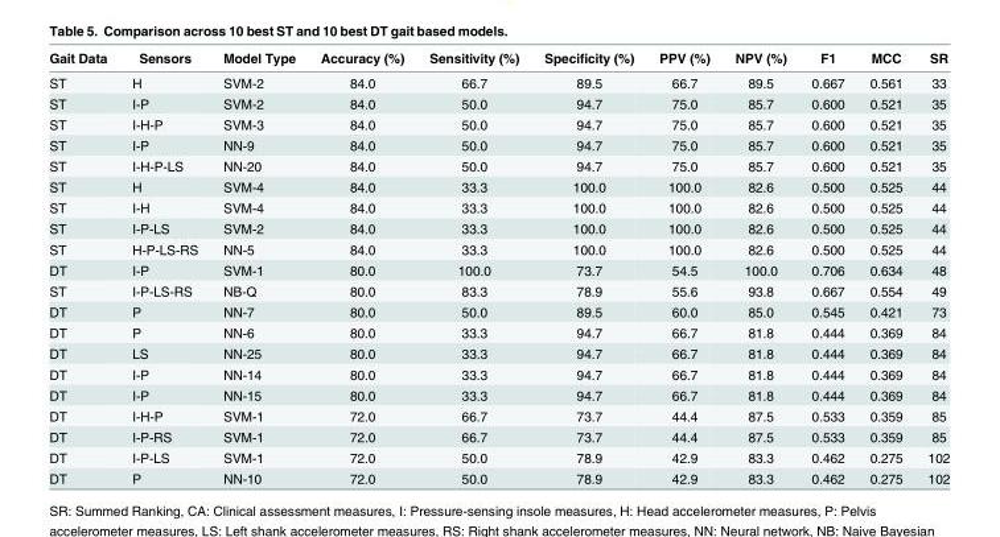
<table><thead><tr><td>Gait Data</td><td>Sensors</td><td>Model Type</td><td>Accuracy (%)</td><td>Sensitivity (%)</td><td>Specificity (%)</td><td>PPV (%)</td><td>NPV (%)</td><td>F1</td><td>MCC</td><td>SR</td></tr></thead><tbody><tr><td>ST</td><td>H</td><td>SVM-2</td><td>84.0</td><td>66.7</td><td>89.5</td><td>66.7</td><td>89.5</td><td>0.667</td><td>0.561</td><td>33</td></tr><tr><td>ST</td><td>I-P</td><td>SVM-2</td><td>84.0</td><td>50.0</td><td>94.7</td><td>75.0</td><td>85.7</td><td>0.600</td><td>0.521</td><td>35</td></tr><tr><td>ST</td><td>I-H-P</td><td>SVM-3</td><td>84.0</td><td>50.0</td><td>94.7</td><td>75.0</td><td>85.7</td><td>0.600</td><td>0.521</td><td>35</td></tr><tr><td>ST</td><td>I-P</td><td>NN-9</td><td>84.0</td><td>50.0</td><td>94.7</td><td>75.0</td><td>85.7</td><td>0.600</td><td>0.521</td><td>35</td></tr><tr><td>ST</td><td>I-H-P-LS</td><td>NN-20</td><td>84.0</td><td>50.0</td><td>94.7</td><td>75.0</td><td>85.7</td><td>0.600</td><td>0.521</td><td>35</td></tr><tr><td>ST</td><td>H</td><td>SVM-4</td><td>84.0</td><td>33.3</td><td>100.0</td><td>100.0</td><td>82.6</td><td>0.500</td><td>0.525</td><td>44</td></tr><tr><td>ST</td><td>I-H</td><td>SVM-4</td><td>84.0</td><td>33.3</td><td>100.0</td><td>100.0</td><td>82.6</td><td>0.500</td><td>0.525</td><td>44</td></tr><tr><td>ST</td><td>I-P-LS</td><td>SVM-2</td><td>84.0</td><td>33.3</td><td>100.0</td><td>100.0</td><td>82.6</td><td>0.500</td><td>0.525</td><td>44</td></tr><tr><td>ST</td><td>H-P-LS-RS</td><td>NN-5</td><td>84.0</td><td>33.3</td><td>100.0</td><td>100.0</td><td>82.6</td><td>0.500</td><td>0.525</td><td>44</td></tr><tr><td>DT</td><td>I-P</td><td>SVM-1</td><td>80.0</td><td>100.0</td><td>73.7</td><td>54.5</td><td>100.0</td><td>0.706</td><td>0.634</td><td>48</td></tr><tr><td>ST</td><td>I-P-LS-RS</td><td>NB-Q</td><td>80.0</td><td>83.3</td><td>78.9</td><td>55.6</td><td>93.8</td><td>0.667</td><td>0.554</td><td>49</td></tr><tr><td>DT</td><td>P</td><td>NN-7</td><td>80.0</td><td>50.0</td><td>89.5</td><td>60.0</td><td>85.0</td><td>0.545</td><td>0.421</td><td>73</td></tr><tr><td>DT</td><td>P</td><td>NN-6</td><td>80.0</td><td>33.3</td><td>94.7</td><td>66.7</td><td>81.8</td><td>0.444</td><td>0.369</td><td>84</td></tr><tr><td>DT</td><td>LS</td><td>NN-25</td><td>80.0</td><td>33.3</td><td>94.7</td><td>66.7</td><td>81.8</td><td>0.444</td><td>0.369</td><td>84</td></tr><tr><td>DT</td><td>I-P</td><td>NN-14</td><td>80.0</td><td>33.3</td><td>94.7</td><td>66.7</td><td>81.8</td><td>0.444</td><td>0.369</td><td>84</td></tr><tr><td>DT</td><td>I-P</td><td>NN-15</td><td>80.0</td><td>33.3</td><td>94.7</td><td>66.7</td><td>81.8</td><td>0.444</td><td>0.369</td><td>84</td></tr><tr><td>DT</td><td>I-H-P</td><td>SVM-1</td><td>72.0</td><td>66.7</td><td>73.7</td><td>44.4</td><td>87.5</td><td>0.533</td><td>0.359</td><td>85</td></tr><tr><td>DT</td><td>I-P-RS</td><td>SVM-1</td><td>72.0</td><td>66.7</td><td>73.7</td><td>44.4</td><td>87.5</td><td>0.533</td><td>0.359</td><td>85</td></tr><tr><td>DT</td><td>I-P-LS</td><td>SVM-1</td><td>72.0</td><td>50.0</td><td>78.9</td><td>42.9</td><td>83.3</td><td>0.462</td><td>0.275</td><td>102</td></tr><tr><td>DT</td><td>P</td><td>NN-10</td><td>72.0</td><td>50.0</td><td>78.9</td><td>42.9</td><td>83.3</td><td>0.462</td><td>0.275</td><td>102</td></tr></tbody></table>